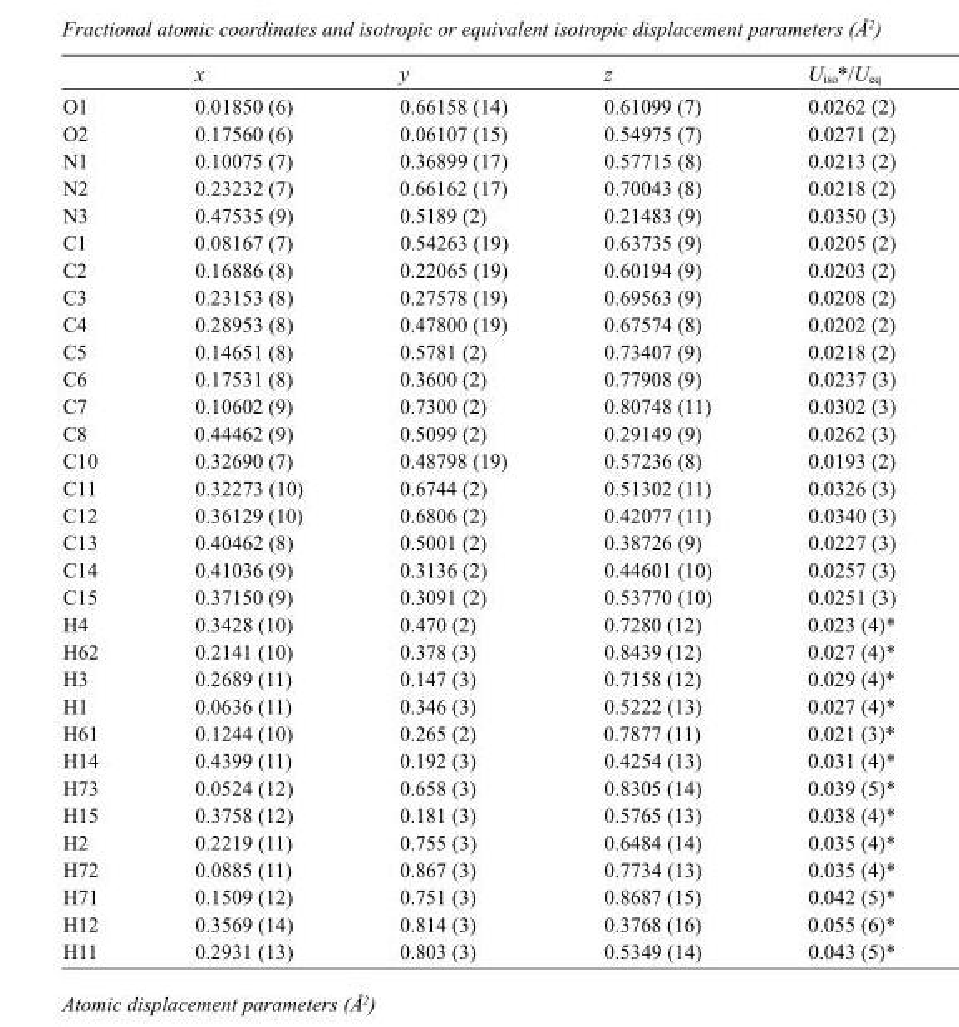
<table><thead><tr><td></td><td>x</td><td>y</td><td>z</td><td>U<sub>iso</sub>*/U<sub>eq</sub></td></tr></thead><tbody><tr><td>O1</td><td>0.01850 (6)</td><td>0.66158 (14)</td><td>0.61099 (7)</td><td>0.0262 (2)</td></tr><tr><td>O2</td><td>0.17560 (6)</td><td>0.06107 (15)</td><td>0.54975 (7)</td><td>0.0271 (2)</td></tr><tr><td>N1</td><td>0.10075 (7)</td><td>0.36899 (17)</td><td>0.57715 (8)</td><td>0.0213 (2)</td></tr><tr><td>N2</td><td>0.23232 (7)</td><td>0.66162 (17)</td><td>0.70043 (8)</td><td>0.0218 (2)</td></tr><tr><td>N3</td><td>0.47535 (9)</td><td>0.5189 (2)</td><td>0.21483 (9)</td><td>0.0350 (3)</td></tr><tr><td>C1</td><td>0.08167 (7)</td><td>0.54263 (19)</td><td>0.63735 (9)</td><td>0.0205 (2)</td></tr><tr><td>C2</td><td>0.16886 (8)</td><td>0.22065 (19)</td><td>0.60194 (9)</td><td>0.0203 (2)</td></tr><tr><td>C3</td><td>0.23153 (8)</td><td>0.27578 (19)</td><td>0.69563 (9)</td><td>0.0208 (2)</td></tr><tr><td>C4</td><td>0.28953 (8)</td><td>0.47800 (19)</td><td>0.67574 (8)</td><td>0.0202 (2)</td></tr><tr><td>C5</td><td>0.14651 (8)</td><td>0.5781 (2)</td><td>0.73407 (9)</td><td>0.0218 (2)</td></tr><tr><td>C6</td><td>0.17531 (8)</td><td>0.3600 (2)</td><td>0.77908 (9)</td><td>0.0237 (3)</td></tr><tr><td>C7</td><td>0.10602 (9)</td><td>0.7300 (2)</td><td>0.80748 (11)</td><td>0.0302 (3)</td></tr><tr><td>C8</td><td>0.44462 (9)</td><td>0.5099 (2)</td><td>0.29149 (9)</td><td>0.0262 (3)</td></tr><tr><td>C10</td><td>0.32690 (7)</td><td>0.48798 (19)</td><td>0.57236 (8)</td><td>0.0193 (2)</td></tr><tr><td>C11</td><td>0.32273 (10)</td><td>0.6744 (2)</td><td>0.51302 (11)</td><td>0.0326 (3)</td></tr><tr><td>C12</td><td>0.36129 (10)</td><td>0.6806 (2)</td><td>0.42077 (11)</td><td>0.0340 (3)</td></tr><tr><td>C13</td><td>0.40462 (8)</td><td>0.5001 (2)</td><td>0.38726 (9)</td><td>0.0227 (3)</td></tr><tr><td>C14</td><td>0.41036 (9)</td><td>0.3136 (2)</td><td>0.44601 (10)</td><td>0.0257 (3)</td></tr><tr><td>C15</td><td>0.37150 (9)</td><td>0.3091 (2)</td><td>0.53770 (10)</td><td>0.0251 (3)</td></tr><tr><td>H4</td><td>0.3428 (10)</td><td>0.470 (2)</td><td>0.7280 (12)</td><td>0.023 (4)*</td></tr><tr><td>H62</td><td>0.2141 (10)</td><td>0.378 (3)</td><td>0.8439 (12)</td><td>0.027 (4)*</td></tr><tr><td>H3</td><td>0.2689 (11)</td><td>0.147 (3)</td><td>0.7158 (12)</td><td>0.029 (4)*</td></tr><tr><td>H1</td><td>0.0636 (11)</td><td>0.346 (3)</td><td>0.5222 (13)</td><td>0.027 (4)*</td></tr><tr><td>H61</td><td>0.1244 (10)</td><td>0.265 (2)</td><td>0.7877 (11)</td><td>0.021 (3)*</td></tr><tr><td>H14</td><td>0.4399 (11)</td><td>0.192 (3)</td><td>0.4254 (13)</td><td>0.031 (4)*</td></tr><tr><td>H73</td><td>0.0524 (12)</td><td>0.658 (3)</td><td>0.8305 (14)</td><td>0.039 (5)*</td></tr><tr><td>H15</td><td>0.3758 (12)</td><td>0.181 (3)</td><td>0.5765 (13)</td><td>0.038 (4)*</td></tr><tr><td>H2</td><td>0.2219 (11)</td><td>0.755 (3)</td><td>0.6484 (14)</td><td>0.035 (4)*</td></tr><tr><td>H72</td><td>0.0885 (11)</td><td>0.867 (3)</td><td>0.7734 (13)</td><td>0.035 (4)*</td></tr><tr><td>H71</td><td>0.1509 (12)</td><td>0.751 (3)</td><td>0.8687 (15)</td><td>0.042 (5)*</td></tr><tr><td>H12</td><td>0.3569 (14)</td><td>0.814 (3)</td><td>0.3768 (16)</td><td>0.055 (6)*</td></tr><tr><td>H11</td><td>0.2931 (13)</td><td>0.803 (3)</td><td>0.5349 (14)</td><td>0.043 (5)*</td></tr></tbody></table>